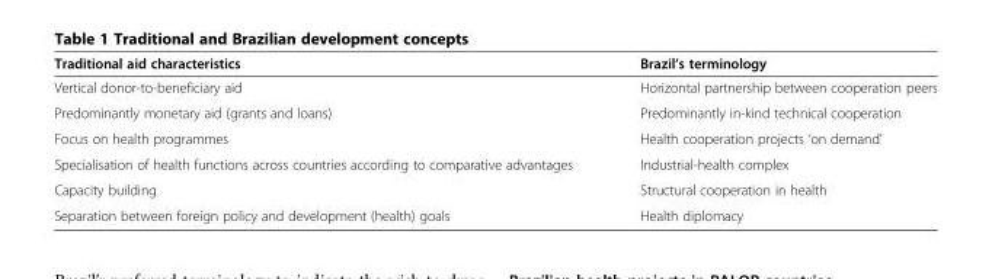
<table><thead><tr><td>Traditional aid characteristics</td><td>Brazil’s terminology</td></tr></thead><tbody><tr><td>Vertical donor-to-beneficiary aid</td><td>Horizontal partnership between cooperation peers</td></tr><tr><td>Predominantly monetary aid (grants and loans)</td><td>Predominantly in-kind technical cooperation</td></tr><tr><td>Focus on health programmes</td><td>Health cooperation projects ‘on demand’</td></tr><tr><td>Specialisation of health functions across countries according to comparative advantages</td><td>Industrial-health complex</td></tr><tr><td>Capacity building</td><td>Structural cooperation in health</td></tr><tr><td>Separation between foreign policy and development (health) goals</td><td>Health diplomacy</td></tr></tbody></table>